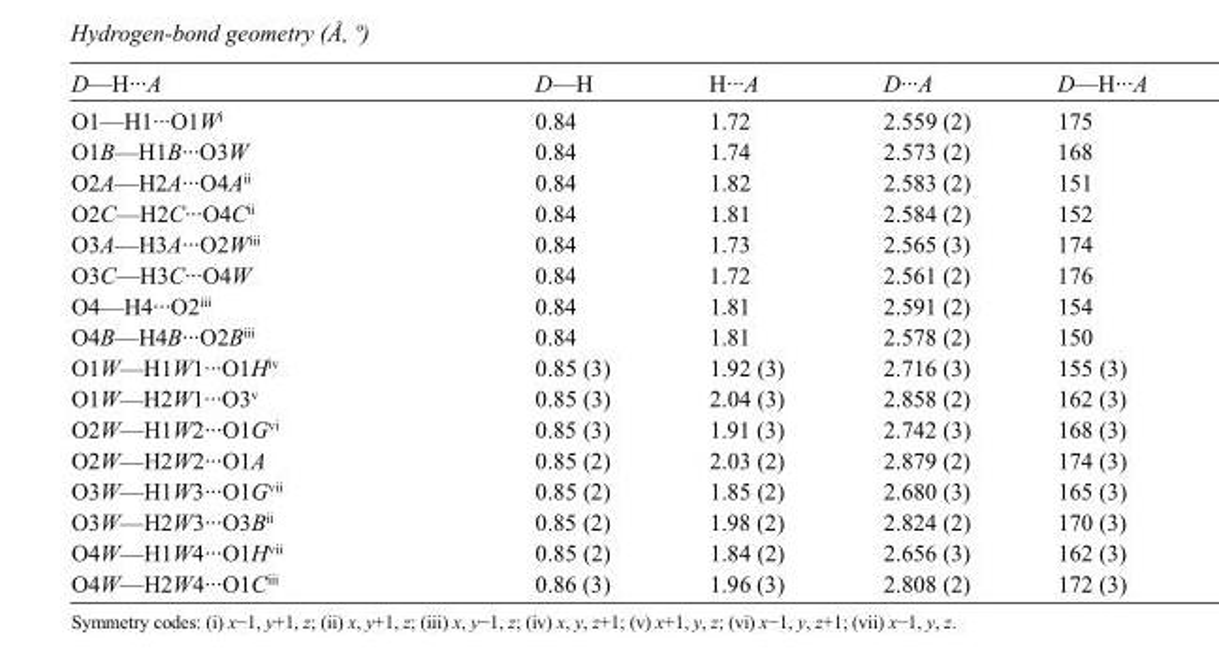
<table><tbody><tr><td>D—H···A</td><td>D—H</td><td>H···A</td><td>D···A</td><td>D—H···A</td></tr><tr><td>O1—H1···O1W<sup>i</sup></td><td>0.84</td><td>1.72</td><td>2.559 (2)</td><td>175</td></tr><tr><td>O1B—H1B···O3W</td><td>0.84</td><td>1.74</td><td>2.573 (2)</td><td>168</td></tr><tr><td>O2A—H2A···O4A<sup>ii</sup></td><td>0.84</td><td>1.82</td><td>2.583 (2)</td><td>151</td></tr><tr><td>O2C—H2C···O4C<sup>ii</sup></td><td>0.84</td><td>1.81</td><td>2.584 (2)</td><td>152</td></tr><tr><td>O3A—H3A···O2W<sup>iii</sup></td><td>0.84</td><td>1.73</td><td>2.565 (3)</td><td>174</td></tr><tr><td>O3C—H3C···O4W</td><td>0.84</td><td>1.72</td><td>2.561 (2)</td><td>176</td></tr><tr><td>O4—H4···O2<sup>iii</sup></td><td>0.84</td><td>1.81</td><td>2.591 (2)</td><td>154</td></tr><tr><td>O4B—H4B···O2B<sup>iii</sup></td><td>0.84</td><td>1.81</td><td>2.578 (2)</td><td>150</td></tr><tr><td>O1W—H1W1···O1H<sup>iv</sup></td><td>0.85 (3)</td><td>1.92 (3)</td><td>2.716 (3)</td><td>155 (3)</td></tr><tr><td>O1W—H2W1···O3<sup>v</sup></td><td>0.85 (3)</td><td>2.04 (3)</td><td>2.858 (2)</td><td>162 (3)</td></tr><tr><td>O2W—H1W2···O1G<sup>vi</sup></td><td>0.85 (3)</td><td>1.91 (3)</td><td>2.742 (3)</td><td>168 (3)</td></tr><tr><td>O2W—H2W2···O1A</td><td>0.85 (2)</td><td>2.03 (2)</td><td>2.879 (2)</td><td>174 (3)</td></tr><tr><td>O3W—H1W3···O1G<sup>vii</sup></td><td>0.85 (2)</td><td>1.85 (2)</td><td>2.680 (3)</td><td>165 (3)</td></tr><tr><td>O3W—H2W3···O3B<sup>ii</sup></td><td>0.85 (2)</td><td>1.98 (2)</td><td>2.824 (2)</td><td>170 (3)</td></tr><tr><td>O4W—H1W4···O1H<sup>vii</sup></td><td>0.85 (2)</td><td>1.84 (2)</td><td>2.656 (3)</td><td>162 (3)</td></tr><tr><td>O4W—H2W4···O1C<sup>iii</sup></td><td>0.86 (3)</td><td>1.96 (3)</td><td>2.808 (2)</td><td>172 (3)</td></tr></tbody></table>